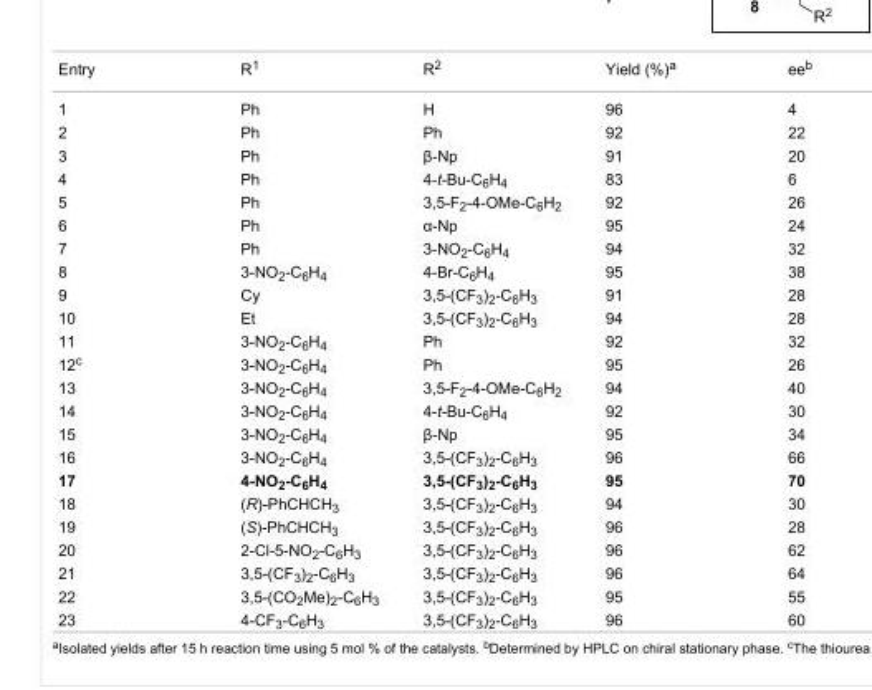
<table><tbody><tr><td>Entry</td><td>R<sup>1</sup></td><td>R<sup>2</sup></td><td>Yield (%)<sup>a</sup></td><td>ee<sup>b</sup></td></tr><tr><td>1</td><td>Ph</td><td>H</td><td>96</td><td>4</td></tr><tr><td>2</td><td>Ph</td><td>Ph</td><td>92</td><td>22</td></tr><tr><td>3</td><td>Ph</td><td>β-Np</td><td>91</td><td>20</td></tr><tr><td>4</td><td>Ph</td><td>4-t-Bu-C<sub>6</sub>H<sub>4</sub></td><td>83</td><td>6</td></tr><tr><td>5</td><td>Ph</td><td>3,5-F<sub>2</sub>-4-OMe-C<sub>6</sub>H<sub>2</sub></td><td>92</td><td>26</td></tr><tr><td>6</td><td>Ph</td><td>α-Np</td><td>95</td><td>24</td></tr><tr><td>7</td><td>Ph</td><td>3-NO<sub>2</sub>-C<sub>6</sub>H<sub>4</sub></td><td>94</td><td>32</td></tr><tr><td>8</td><td>3-NO<sub>2</sub>-C<sub>6</sub>H<sub>4</sub></td><td>4-Br-C<sub>6</sub>H<sub>4</sub></td><td>95</td><td>38</td></tr><tr><td>9</td><td>Cy</td><td>3,5-(CF<sub>3</sub>)<sub>2</sub>-C<sub>6</sub>H<sub>3</sub></td><td>91</td><td>28</td></tr><tr><td>10</td><td>Et</td><td>3,5-(CF<sub>3</sub>)<sub>2</sub>-C<sub>6</sub>H<sub>3</sub></td><td>94</td><td>28</td></tr><tr><td>11</td><td>3-NO<sub>2</sub>-C<sub>6</sub>H<sub>4</sub></td><td>Ph</td><td>92</td><td>32</td></tr><tr><td>12<sup>c</sup></td><td>3-NO<sub>2</sub>-C<sub>6</sub>H<sub>4</sub></td><td>Ph</td><td>95</td><td>26</td></tr><tr><td>13</td><td>3-NO<sub>2</sub>-C<sub>6</sub>H<sub>4</sub></td><td>3,5-F<sub>2</sub>-4-OMe-C<sub>6</sub>H<sub>2</sub></td><td>94</td><td>40</td></tr><tr><td>14</td><td>3-NO<sub>2</sub>-C<sub>6</sub>H<sub>4</sub></td><td>4-t-Bu-C<sub>6</sub>H<sub>4</sub></td><td>92</td><td>30</td></tr><tr><td>15</td><td>3-NO<sub>2</sub>-C<sub>6</sub>H<sub>4</sub></td><td>β-Np</td><td>95</td><td>34</td></tr><tr><td>16</td><td>3-NO<sub>2</sub>-C<sub>6</sub>H<sub>4</sub></td><td>3,5-(CF<sub>3</sub>)<sub>2</sub>-C<sub>6</sub>H<sub>3</sub></td><td>96</td><td>66</td></tr><tr><td>17</td><td>4-NO<sub>2</sub>-C<sub>6</sub>H<sub>4</sub></td><td>3,5-(CF<sub>3</sub>)<sub>2</sub>-C<sub>6</sub>H<sub>3</sub></td><td>95</td><td>70</td></tr><tr><td>18</td><td>(R)-PhCHCH<sub>3</sub></td><td>3,5-(CF<sub>3</sub>)<sub>2</sub>-C<sub>6</sub>H<sub>3</sub></td><td>94</td><td>30</td></tr><tr><td>19</td><td>(S)-PhCHCH<sub>3</sub></td><td>3,5-(CF<sub>3</sub>)<sub>2</sub>-C<sub>6</sub>H<sub>3</sub></td><td>96</td><td>28</td></tr><tr><td>20</td><td>2-Cl-5-NO<sub>2</sub>-C<sub>6</sub>H<sub>3</sub></td><td>3,5-(CF<sub>3</sub>)<sub>2</sub>-C<sub>6</sub>H<sub>3</sub></td><td>96</td><td>62</td></tr><tr><td>21</td><td>3,5-(CF<sub>3</sub>)<sub>2</sub>-C<sub>6</sub>H<sub>3</sub></td><td>3,5-(CF<sub>3</sub>)<sub>2</sub>-C<sub>6</sub>H<sub>3</sub></td><td>96</td><td>64</td></tr><tr><td>22</td><td>3,5-(CO<sub>2</sub>Me)<sub>2</sub>-C<sub>6</sub>H<sub>3</sub></td><td>3,5-(CF<sub>3</sub>)<sub>2</sub>-C<sub>6</sub>H<sub>3</sub></td><td>95</td><td>55</td></tr><tr><td>23</td><td>4-CF<sub>3</sub>-C<sub>6</sub>H<sub>3</sub></td><td>3,5-(CF<sub>3</sub>)<sub>2</sub>-C<sub>6</sub>H<sub>3</sub></td><td>96</td><td>60</td></tr></tbody></table>